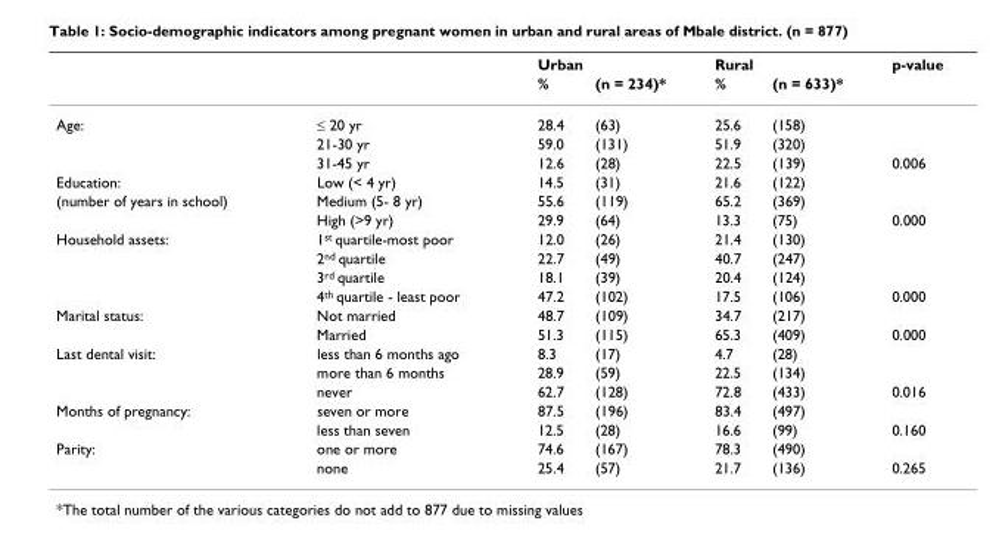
<table><thead><tr><td rowspan="2"></td><td rowspan="2"></td><td colspan="2">Urban</td><td colspan="2">Rural</td><td rowspan="2">p-value</td></tr><tr><td>%</td><td>(n = 234)*</td><td>%</td><td>(n = 633)*</td></tr></thead><tbody><tr><td rowspan="3">Age:</td><td>≤ 20 yr</td><td>28.4</td><td>(63)</td><td>25.6</td><td>(158)</td><td></td></tr><tr><td>21-30 yr</td><td>59.0</td><td>(131)</td><td>51.9</td><td>(320)</td><td></td></tr><tr><td>31-45 yr</td><td>12.6</td><td>(28)</td><td>22.5</td><td>(139)</td><td>0.006</td></tr><tr><td>Education:</td><td>Low (&lt; 4 yr)</td><td>14.5</td><td>(31)</td><td>21.6</td><td>(122)</td><td></td></tr><tr><td rowspan="2">(number of years in school)</td><td>Medium (5- 8 yr)</td><td>55.6</td><td>(119)</td><td>65.2</td><td>(369)</td><td></td></tr><tr><td>High (&gt;9 yr)</td><td>29.9</td><td>(64)</td><td>13.3</td><td>(75)</td><td>0.000</td></tr><tr><td rowspan="4">Household assets:</td><td>1<sup>st</sup> quartile-most poor</td><td>12.0</td><td>(26)</td><td>21.4</td><td>(130)</td><td></td></tr><tr><td>2<sup>nd</sup> quartile</td><td>22.7</td><td>(49)</td><td>40.7</td><td>(247)</td><td></td></tr><tr><td>3<sup>rd</sup> quartile</td><td>18.1</td><td>(39)</td><td>20.4</td><td>(124)</td><td></td></tr><tr><td>4<sup>th</sup> quartile - least poor</td><td>47.2</td><td>(102)</td><td>17.5</td><td>(106)</td><td>0.000</td></tr><tr><td rowspan="2">Marital status:</td><td>Not married</td><td>48.7</td><td>(109)</td><td>34.7</td><td>(217)</td><td></td></tr><tr><td>Married</td><td>51.3</td><td>(115)</td><td>65.3</td><td>(409)</td><td>0.000</td></tr><tr><td rowspan="3">Last dental visit:</td><td>less than 6 months ago</td><td>8.3</td><td>(17)</td><td>4.7</td><td>(28)</td><td></td></tr><tr><td>more than 6 months</td><td>28.9</td><td>(59)</td><td>22.5</td><td>(134)</td><td></td></tr><tr><td>never</td><td>62.7</td><td>(128)</td><td>72.8</td><td>(433)</td><td>0.016</td></tr><tr><td rowspan="2">Months of pregnancy:</td><td>seven or more</td><td>87.5</td><td>(196)</td><td>83.4</td><td>(497)</td><td></td></tr><tr><td>less than seven</td><td>12.5</td><td>(28)</td><td>16.6</td><td>(99)</td><td>0.160</td></tr><tr><td rowspan="2">Parity:</td><td>one or more</td><td>74.6</td><td>(167)</td><td>78.3</td><td>(490)</td><td></td></tr><tr><td>none</td><td>25.4</td><td>(57)</td><td>21.7</td><td>(136)</td><td>0.265</td></tr></tbody></table>